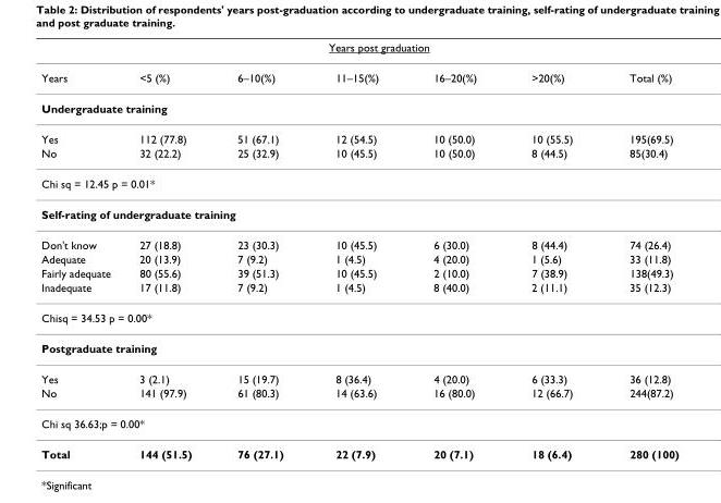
<table><thead><tr><td colspan="7">Years post graduation</td></tr><tr><td>Years</td><td>&lt;5 (%)</td><td>6–10(%)</td><td>11–15(%)</td><td>16–20(%)</td><td>&gt;20(%)</td><td>Total (%)</td></tr></thead><tbody><tr><td colspan="7">Undergraduate training</td></tr><tr><td>Yes</td><td>112 (77.8)</td><td>51 (67.1)</td><td>12 (54.5)</td><td>10 (50.0)</td><td>10 (55.5)</td><td>195(69.5)</td></tr><tr><td>No</td><td>32 (22.2)</td><td>25 (32.9)</td><td>10 (45.5)</td><td>10 (50.0)</td><td>8 (44.5)</td><td>85(30.4)</td></tr><tr><td colspan="7">Chi sq = 12.45 p = 0.01*</td></tr><tr><td colspan="7">Self-rating of undergraduate training</td></tr><tr><td>Don&#x27;t know</td><td>27 (18.8)</td><td>23 (30.3)</td><td>10 (45.5)</td><td>6 (30.0)</td><td>8 (44.4)</td><td>74 (26.4)</td></tr><tr><td>Adequate</td><td>20 (13.9)</td><td>7 (9.2)</td><td>1 (4.5)</td><td>4 (20.0)</td><td>1 (5.6)</td><td>33 (11.8)</td></tr><tr><td>Fairly adequate</td><td>80 (55.6)</td><td>39 (51.3)</td><td>10 (45.5)</td><td>2 (10.0)</td><td>7 (38.9)</td><td>138(49.3)</td></tr><tr><td>Inadequate</td><td>17 (11.8)</td><td>7 (9.2)</td><td>1 (4.5)</td><td>8 (40.0)</td><td>2 (11.1)</td><td>35 (12.3)</td></tr><tr><td colspan="7">Chisq = 34.53 p = 0.00*</td></tr><tr><td colspan="7">Postgraduate training</td></tr><tr><td>Yes</td><td>3 (2.1)</td><td>15 (19.7)</td><td>8 (36.4)</td><td>4 (20.0)</td><td>6 (33.3)</td><td>36 (12.8)</td></tr><tr><td>No</td><td>141 (97.9)</td><td>61 (80.3)</td><td>14 (63.6)</td><td>16 (80.0)</td><td>12 (66.7)</td><td>244(87.2)</td></tr><tr><td colspan="7">Chi sq 36.63;p = 0.00*</td></tr><tr><td>Total</td><td>144 (51.5)</td><td>76 (27.1)</td><td>22 (7.9)</td><td>20 (7.1)</td><td>18 (6.4)</td><td>280 (100)</td></tr></tbody></table>